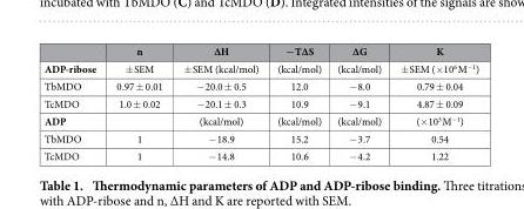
<table><thead><tr><td></td><td>n</td><td>ΔH</td><td>−TΔS</td><td>ΔG</td><td>K</td></tr></thead><tbody><tr><td>ADP-ribose</td><td>± SEM</td><td>± SEM (kcal/mol)</td><td>(kcal/mol)</td><td>(kcal/mol)</td><td>± SEM (×10<sup>6</sup> M<sup>−1</sup>)</td></tr><tr><td>TbMDO</td><td>0.97 ± 0.01</td><td>− 20.0 ± 0.5</td><td>12.0</td><td>− 8.0</td><td>0.79 ± 0.04</td></tr><tr><td>TcMDO</td><td>1.0 ± 0.02</td><td>− 20.1 ± 0.3</td><td>10.9</td><td>− 9.1</td><td>4.87 ± 0.09</td></tr><tr><td>ADP</td><td></td><td>(kcal/mol)</td><td>(kcal/mol)</td><td>(kcal/mol)</td><td>(×10<sup>3</sup> M<sup>−1</sup>)</td></tr><tr><td>TbMDO</td><td>1</td><td>− 18.9</td><td>15.2</td><td>− 3.7</td><td>0.54</td></tr><tr><td>TcMDO</td><td>1</td><td>− 14.8</td><td>10.6</td><td>− 4.2</td><td>1.22</td></tr></tbody></table>